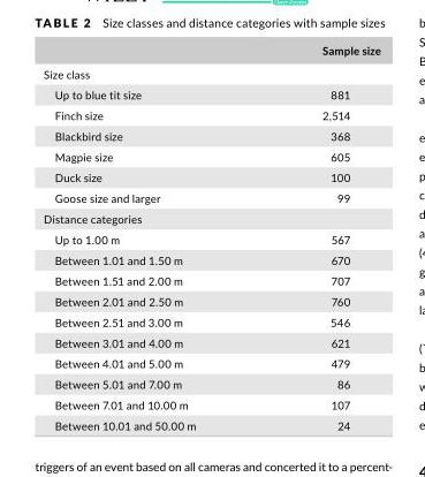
<table><thead><tr><td></td><td>Sample size</td></tr></thead><tbody><tr><td colspan="2">Size class</td></tr><tr><td>Up to blue tit size</td><td>881</td></tr><tr><td>Finch size</td><td>2,514</td></tr><tr><td>Blackbird size</td><td>368</td></tr><tr><td>Magpie size</td><td>605</td></tr><tr><td>Duck size</td><td>100</td></tr><tr><td>Goose size and larger</td><td>99</td></tr><tr><td colspan="2">Distance categories</td></tr><tr><td>Up to 1.00 m</td><td>567</td></tr><tr><td>Between 1.01 and 1.50 m</td><td>670</td></tr><tr><td>Between 1.51 and 2.00 m</td><td>707</td></tr><tr><td>Between 2.01 and 2.50 m</td><td>760</td></tr><tr><td>Between 2.51 and 3.00 m</td><td>546</td></tr><tr><td>Between 3.01 and 4.00 m</td><td>621</td></tr><tr><td>Between 4.01 and 5.00 m</td><td>479</td></tr><tr><td>Between 5.01 and 7.00 m</td><td>86</td></tr><tr><td>Between 7.01 and 10.00 m</td><td>107</td></tr><tr><td>Between 10.01 and 50.00 m</td><td>24</td></tr></tbody></table>